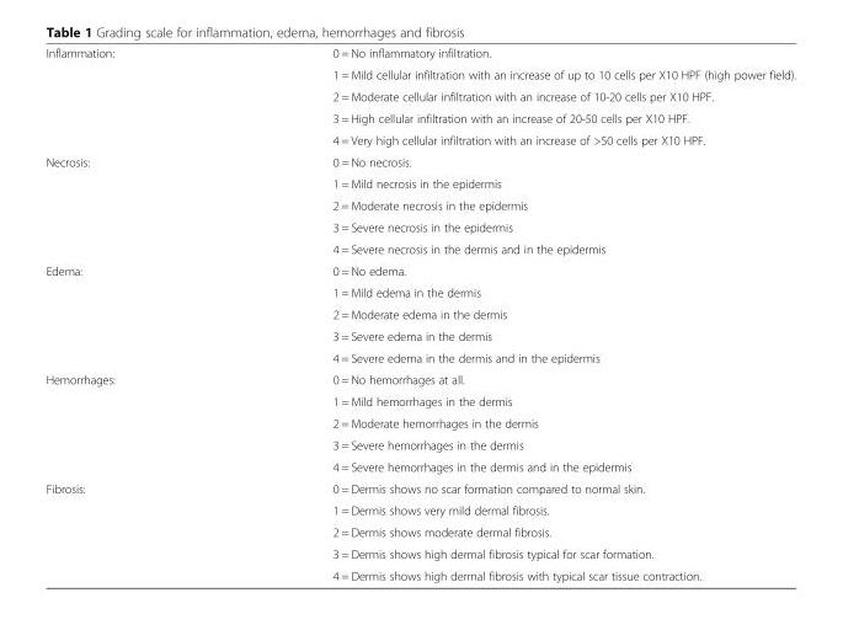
<table><tbody><tr><td rowspan="5">Inflammation:</td><td>0 = No inflammatory infiltration.</td></tr><tr><td>1 = Mild cellular infiltration with an increase of up to 10 cells per X10 HPF (high power field).</td></tr><tr><td>2 = Moderate cellular infiltration with an increase of 10-20 cells per X10 HPF.</td></tr><tr><td>3 = High cellular infiltration with an increase of 20-50 cells per X10 HPF.</td></tr><tr><td>4 = Very high cellular infiltration with an increase of &gt;50 cells per X10 HPF.</td></tr><tr><td rowspan="5">Necrosis:</td><td>0 = No necrosis.</td></tr><tr><td>1 = Mild necrosis in the epidermis</td></tr><tr><td>2 = Moderate necrosis in the epidermis</td></tr><tr><td>3 = Severe necrosis in the epidermis</td></tr><tr><td>4 = Severe necrosis in the dermis and in the epidermis</td></tr><tr><td rowspan="5">Edema:</td><td>0 = No edema.</td></tr><tr><td>1 = Mild edema in the dermis</td></tr><tr><td>2 = Moderate edema in the dermis</td></tr><tr><td>3 = Severe edema in the dermis</td></tr><tr><td>4 = Severe edema in the dermis and in the epidermis</td></tr><tr><td rowspan="5">Hemorrhages:</td><td>0 = No hemorrhages at all.</td></tr><tr><td>1 = Mild hemorrhages in the dermis</td></tr><tr><td>2 = Moderate hemorrhages in the dermis</td></tr><tr><td>3 = Severe hemorrhages in the dermis</td></tr><tr><td>4 = Severe hemorrhages in the dermis and in the epidermis</td></tr><tr><td rowspan="5">Fibrosis:</td><td>0 = Dermis shows no scar formation compared to normal skin.</td></tr><tr><td>1 = Dermis shows very mild dermal fibrosis.</td></tr><tr><td>2 = Dermis shows moderate dermal fibrosis.</td></tr><tr><td>3 = Dermis shows high dermal fibrosis typical for scar formation.</td></tr><tr><td>4 = Dermis shows high dermal fibrosis with typical scar tissue contraction.</td></tr></tbody></table>